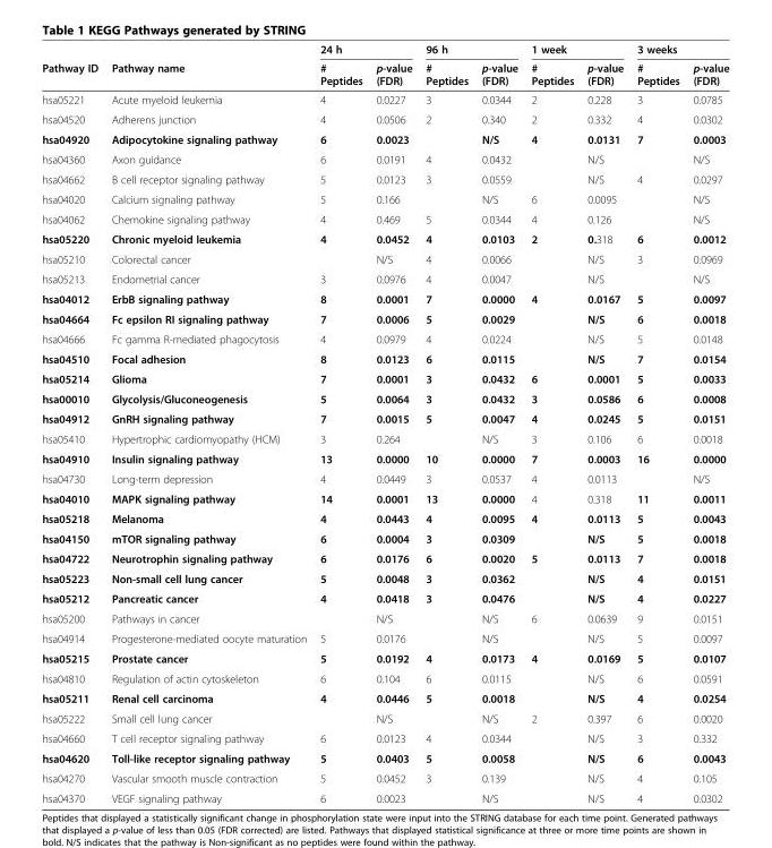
<table><thead><tr><td rowspan="2">Pathway ID</td><td rowspan="2">Pathway name</td><td colspan="2">24 h</td><td colspan="2">96 h</td><td colspan="2">1 week</td><td colspan="2">3 weeks</td></tr><tr><td># Peptides</td><td>p-value (FDR)</td><td># Peptides</td><td>p-value (FDR)</td><td># Peptides</td><td>p-value (FDR)</td><td># Peptides</td><td>p-value (FDR)</td></tr></thead><tbody><tr><td>hsa05221</td><td>Acute myeloid leukemia</td><td>4</td><td>0.0227</td><td>3</td><td>0.0344</td><td>2</td><td>0.228</td><td>3</td><td>0.0785</td></tr><tr><td>hsa04520</td><td>Adherens junction</td><td>4</td><td>0.0506</td><td>2</td><td>0.340</td><td>2</td><td>0.332</td><td>4</td><td>0.0302</td></tr><tr><td>hsa04920</td><td>Adipocytokine signaling pathway</td><td>6</td><td>0.0023</td><td></td><td>N/S</td><td>4</td><td>0.0131</td><td>7</td><td>0.0003</td></tr><tr><td>hsa04360</td><td>Axon guidance</td><td>6</td><td>0.0191</td><td>4</td><td>0.0432</td><td></td><td>N/S</td><td></td><td>N/S</td></tr><tr><td>hsa04662</td><td>B cell receptor signaling pathway</td><td>5</td><td>0.0123</td><td>3</td><td>0.0559</td><td></td><td>N/S</td><td>4</td><td>0.0297</td></tr><tr><td>hsa04020</td><td>Calcium signaling pathway</td><td>5</td><td>0.166</td><td></td><td>N/S</td><td>6</td><td>0.0095</td><td></td><td>N/S</td></tr><tr><td>hsa04062</td><td>Chemokine signaling pathway</td><td>4</td><td>0.469</td><td>5</td><td>0.0344</td><td>4</td><td>0.126</td><td></td><td>N/S</td></tr><tr><td>hsa05220</td><td>Chronic myeloid leukemia</td><td>4</td><td>0.0452</td><td>4</td><td>0.0103</td><td>2</td><td>0.318</td><td>6</td><td>0.0012</td></tr><tr><td>hsa05210</td><td>Colorectal cancer</td><td></td><td>N/S</td><td>4</td><td>0.0066</td><td></td><td>N/S</td><td>3</td><td>0.0969</td></tr><tr><td>hsa05213</td><td>Endometrial cancer</td><td>3</td><td>0.0976</td><td>4</td><td>0.0047</td><td></td><td>N/S</td><td></td><td>N/S</td></tr><tr><td>hsa04012</td><td>ErbB signaling pathway</td><td>8</td><td>0.0001</td><td>7</td><td>0.0000</td><td>4</td><td>0.0167</td><td>5</td><td>0.0097</td></tr><tr><td>hsa04664</td><td>Fc epsilon RI signaling pathway</td><td>7</td><td>0.0006</td><td>5</td><td>0.0029</td><td></td><td>N/S</td><td>6</td><td>0.0018</td></tr><tr><td>hsa04666</td><td>Fc gamma R-mediated phagocytosis</td><td>4</td><td>0.0979</td><td>4</td><td>0.0224</td><td></td><td>N/S</td><td>5</td><td>0.0148</td></tr><tr><td>hsa04510</td><td>Focal adhesion</td><td>8</td><td>0.0123</td><td>6</td><td>0.0115</td><td></td><td>N/S</td><td>7</td><td>0.0154</td></tr><tr><td>hsa05214</td><td>Glioma</td><td>7</td><td>0.0001</td><td>3</td><td>0.0432</td><td>6</td><td>0.0001</td><td>5</td><td>0.0033</td></tr><tr><td>hsa00010</td><td>Glycolysis/Gluconeogenesis</td><td>5</td><td>0.0064</td><td>3</td><td>0.0432</td><td>3</td><td>0.0586</td><td>6</td><td>0.0008</td></tr><tr><td>hsa04912</td><td>GnRH signaling pathway</td><td>7</td><td>0.0015</td><td>5</td><td>0.0047</td><td>4</td><td>0.0245</td><td>5</td><td>0.0151</td></tr><tr><td>hsa05410</td><td>Hypertrophic cardiomyopathy (HCM)</td><td>3</td><td>0.264</td><td></td><td>N/S</td><td>3</td><td>0.106</td><td>6</td><td>0.0018</td></tr><tr><td>hsa04910</td><td>Insulin signaling pathway</td><td>13</td><td>0.0000</td><td>10</td><td>0.0000</td><td>7</td><td>0.0003</td><td>16</td><td>0.0000</td></tr><tr><td>hsa04730</td><td>Long-term depression</td><td>4</td><td>0.0449</td><td>3</td><td>0.0537</td><td>4</td><td>0.0113</td><td></td><td>N/S</td></tr><tr><td>hsa04010</td><td>MAPK signaling pathway</td><td>14</td><td>0.0001</td><td>13</td><td>0.0000</td><td>4</td><td>0.318</td><td>11</td><td>0.0011</td></tr><tr><td>hsa05218</td><td>Melanoma</td><td>4</td><td>0.0443</td><td>4</td><td>0.0095</td><td>4</td><td>0.0113</td><td>5</td><td>0.0043</td></tr><tr><td>hsa04150</td><td>mTOR signaling pathway</td><td>6</td><td>0.0004</td><td>3</td><td>0.0309</td><td></td><td>N/S</td><td>5</td><td>0.0018</td></tr><tr><td>hsa04722</td><td>Neurotrophin signaling pathway</td><td>6</td><td>0.0176</td><td>6</td><td>0.0020</td><td>5</td><td>0.0113</td><td>7</td><td>0.0018</td></tr><tr><td>hsa05223</td><td>Non-small cell lung cancer</td><td>5</td><td>0.0048</td><td>3</td><td>0.0362</td><td></td><td>N/S</td><td>4</td><td>0.0151</td></tr><tr><td>hsa05212</td><td>Pancreatic cancer</td><td>4</td><td>0.0418</td><td>3</td><td>0.0476</td><td></td><td>N/S</td><td>4</td><td>0.0227</td></tr><tr><td>hsa05200</td><td>Pathways in cancer</td><td></td><td>N/S</td><td></td><td>N/S</td><td>6</td><td>0.0639</td><td>9</td><td>0.0151</td></tr><tr><td>hsa04914</td><td>Progesterone-mediated oocyte maturation</td><td>5</td><td>0.0176</td><td></td><td>N/S</td><td></td><td>N/S</td><td>5</td><td>0.0097</td></tr><tr><td>hsa05215</td><td>Prostate cancer</td><td>5</td><td>0.0192</td><td>4</td><td>0.0173</td><td>4</td><td>0.0169</td><td>5</td><td>0.0107</td></tr><tr><td>hsa04810</td><td>Regulation of actin cytoskeleton</td><td>6</td><td>0.104</td><td>6</td><td>0.0115</td><td></td><td>N/S</td><td>6</td><td>0.0591</td></tr><tr><td>hsa05211</td><td>Renal cell carcinoma</td><td>4</td><td>0.0446</td><td>5</td><td>0.0018</td><td></td><td>N/S</td><td>4</td><td>0.0254</td></tr><tr><td>hsa05222</td><td>Small cell lung cancer</td><td></td><td>N/S</td><td></td><td>N/S</td><td>2</td><td>0.397</td><td>6</td><td>0.0020</td></tr><tr><td>hsa04660</td><td>T cell receptor signaling pathway</td><td>6</td><td>0.0123</td><td>4</td><td>0.0344</td><td></td><td>N/S</td><td>3</td><td>0.332</td></tr><tr><td>hsa04620</td><td>Toll-like receptor signaling pathway</td><td>5</td><td>0.0403</td><td>5</td><td>0.0058</td><td></td><td>N/S</td><td>6</td><td>0.0043</td></tr><tr><td>hsa04270</td><td>Vascular smooth muscle contraction</td><td>5</td><td>0.0452</td><td>3</td><td>0.139</td><td></td><td>N/S</td><td>4</td><td>0.105</td></tr><tr><td>hsa04370</td><td>VEGF signaling pathway</td><td>6</td><td>0.0023</td><td></td><td>N/S</td><td></td><td>N/S</td><td>4</td><td>0.0302</td></tr></tbody></table>